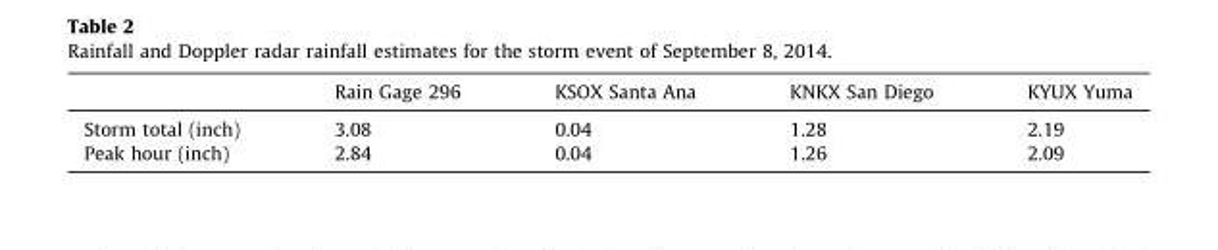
<table><thead><tr><td></td><td>Rain Gage 296</td><td>KSOX Santa Ana</td><td>KNKX San Diego</td><td>KYUX Yuma</td></tr></thead><tbody><tr><td>Storm total (inch)</td><td>3.08</td><td>0.04</td><td>1.28</td><td>2.19</td></tr><tr><td>Peak hour (inch)</td><td>2.84</td><td>0.04</td><td>1.26</td><td>2.09</td></tr></tbody></table>